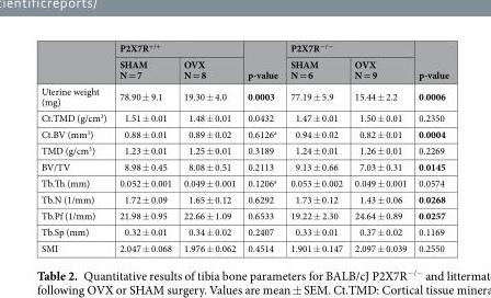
<table><thead><tr><td rowspan="2"></td><td colspan="2">P2X7R<sup>+/+</sup></td><td rowspan="2">p-value</td><td colspan="2">P2X7R<sup>−/−</sup></td><td rowspan="2">p-value</td></tr><tr><td>SHAM N = 7</td><td>OVX N = 8</td><td>SHAM N = 6</td><td>OVX N = 9</td></tr></thead><tbody><tr><td>Uterine weight (mg)</td><td>78.90 ± 9.1</td><td>19.30 ± 4.0</td><td>0.0003</td><td>77.19 ± 5.9</td><td>15.44 ± 2.2</td><td>0.0006</td></tr><tr><td>Ct.TMD (g/cm<sup>3</sup>)</td><td>1.51 ± 0.01</td><td>1.48 ± 0.01</td><td>0.0432</td><td>1.47 ± 0.01</td><td>1.50 ± 0.01</td><td>0.2350</td></tr><tr><td>Ct.BV (mm<sup>3</sup>)</td><td>0.88 ± 0.01</td><td>0.89 ± 0.02</td><td>0.6126<sup>a</sup></td><td>0.94 ± 0.02</td><td>0.82 ± 0.01</td><td>0.0004</td></tr><tr><td>TMD (g/cm<sup>3</sup>)</td><td>1.23 ± 0.01</td><td>1.25 ± 0.01</td><td>0.3189</td><td>1.24 ± 0.01</td><td>1.26 ± 0.01</td><td>0.2269</td></tr><tr><td>BV/TV</td><td>8.98 ± 0.45</td><td>8.08 ± 0.51</td><td>0.2113</td><td>9.13 ± 0.66</td><td>7.03 ± 0.31</td><td>0.0145</td></tr><tr><td>Tb.Th (mm)</td><td>0.052 ± 0.001</td><td>0.049 ± 0.001</td><td>0.1206<sup>a</sup></td><td>0.053 ± 0.002</td><td>0.049 ± 0.001</td><td>0.0574</td></tr><tr><td>Tb.N (1/mm)</td><td>1.72 ± 0.09</td><td>1.65 ± 0.12</td><td>0.6292</td><td>1.73 ± 0.12</td><td>1.43 ± 0.06</td><td>0.0268</td></tr><tr><td>Tb.Pf (1/mm)</td><td>21.98 ± 0.95</td><td>22.66 ± 1.09</td><td>0.6533</td><td>19.22 ± 2.30</td><td>24.64 ± 0.89</td><td>0.0257</td></tr><tr><td>Tb.Sp (mm)</td><td>0.32 ± 0.01</td><td>0.34 ± 0.02</td><td>0.2407</td><td>0.33 ± 0.01</td><td>0.37 ± 0.02</td><td>0.1169</td></tr><tr><td>SMI</td><td>2.047 ± 0.068</td><td>1.976 ± 0.062</td><td>0.4514</td><td>1.901 ± 0.147</td><td>2.097 ± 0.039</td><td>0.2550</td></tr></tbody></table>